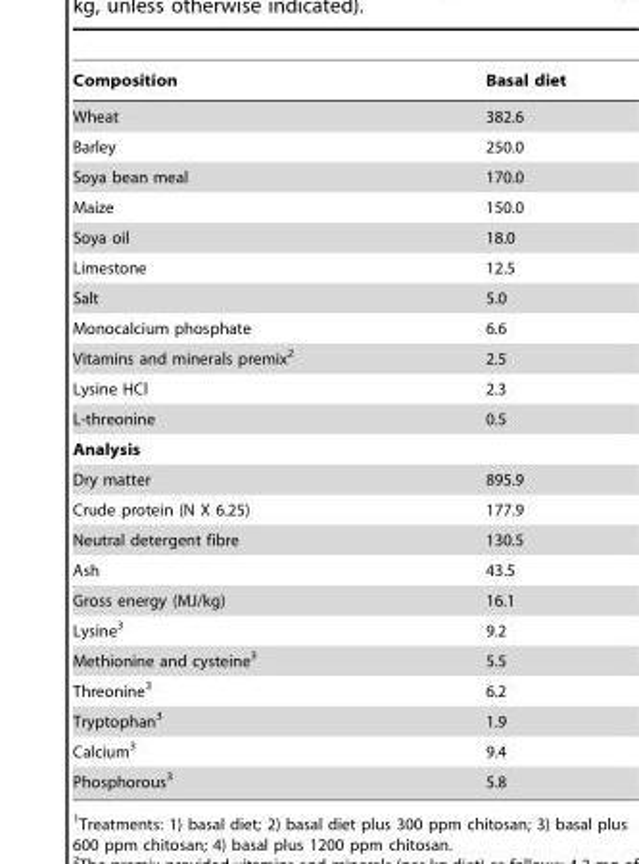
<table><thead><tr><td>Composition</td><td>Basal diet</td></tr></thead><tbody><tr><td>Wheat</td><td>382.6</td></tr><tr><td>Barley</td><td>250.0</td></tr><tr><td>Soya bean meal</td><td>170.0</td></tr><tr><td>Maize</td><td>150.0</td></tr><tr><td>Soya oil</td><td>18.0</td></tr><tr><td>Limestone</td><td>12.5</td></tr><tr><td>Salt</td><td>5.0</td></tr><tr><td>Monocalcium phosphate</td><td>6.6</td></tr><tr><td>Vitamins and minerals premix<sup>2</sup></td><td>2.5</td></tr><tr><td>Lysine HCl</td><td>2.3</td></tr><tr><td>L-threonine</td><td>0.5</td></tr><tr><td colspan="2">Analysis</td></tr><tr><td>Dry matter</td><td>895.9</td></tr><tr><td>Crude protein (N X 6.25)</td><td>177.9</td></tr><tr><td>Neutral detergent fibre</td><td>130.5</td></tr><tr><td>Ash</td><td>43.5</td></tr><tr><td>Gross energy (MJ/kg)</td><td>16.1</td></tr><tr><td>Lysine<sup>3</sup></td><td>9.2</td></tr><tr><td>Methionine and cysteine<sup>3</sup></td><td>5.5</td></tr><tr><td>Threonine<sup>3</sup></td><td>6.2</td></tr><tr><td>Tryptophan<sup>3</sup></td><td>1.9</td></tr><tr><td>Calcium<sup>3</sup></td><td>9.4</td></tr><tr><td>Phosphorous<sup>3</sup></td><td>5.8</td></tr></tbody></table>